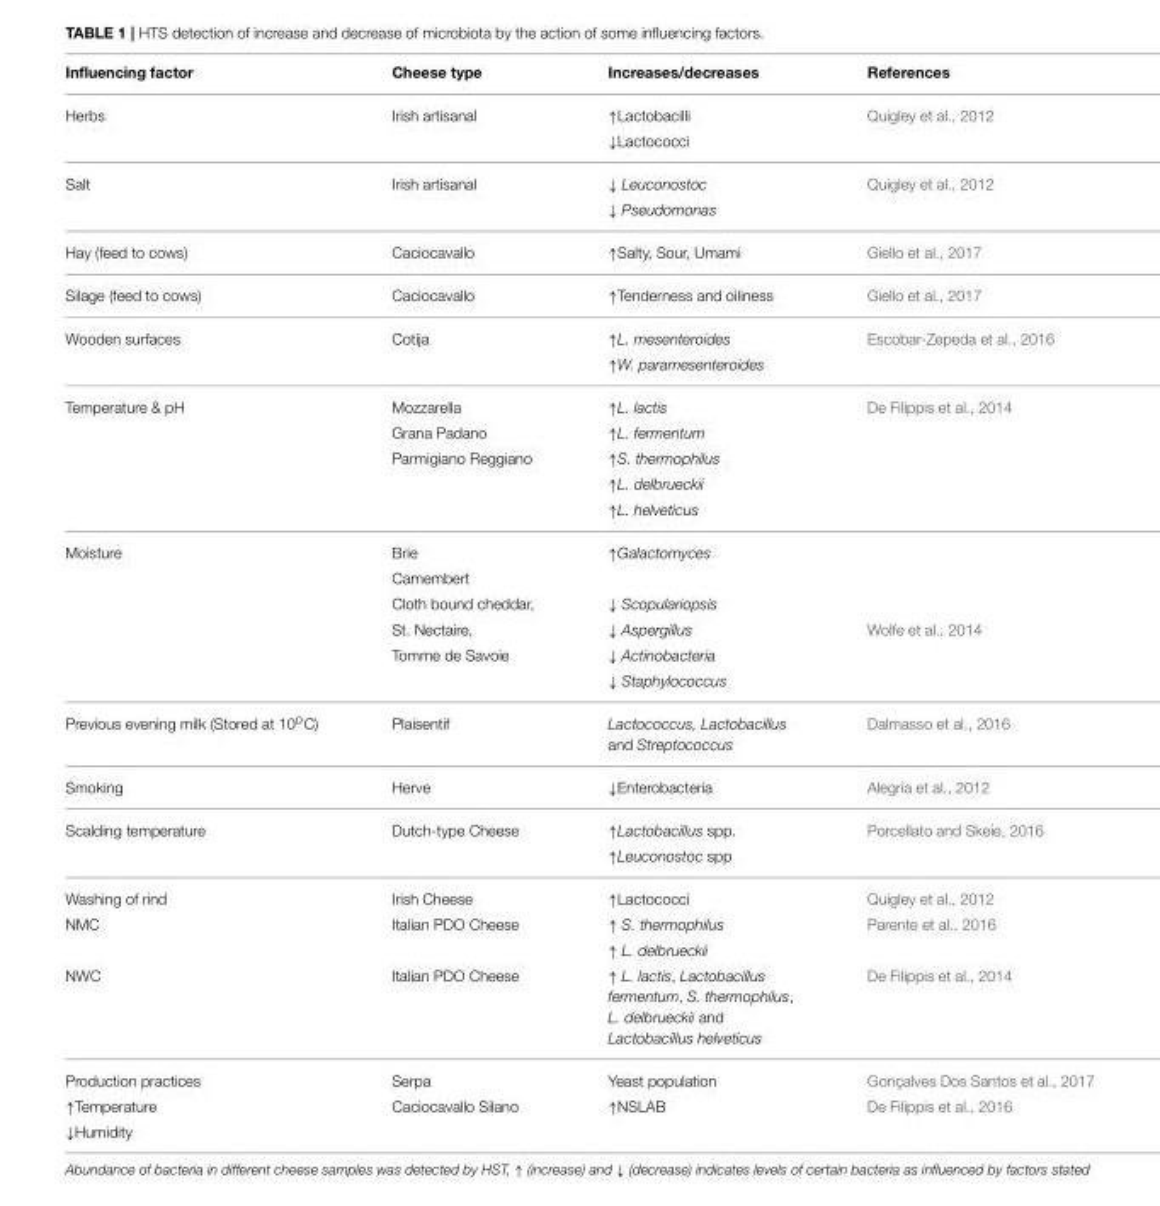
<table><thead><tr><td>Influencing factor</td><td>Cheese type</td><td>Increases/decreases</td><td>References</td></tr></thead><tbody><tr><td rowspan="2">Herbs</td><td>Irish artisanal</td><td>↑Lactobacilli</td><td>Quigley et al., 2012</td></tr><tr><td></td><td>↓Lactococci</td><td></td></tr><tr><td rowspan="2">Salt</td><td>Irish artisanal</td><td>↓ Leuconostoc</td><td>Quigley et al., 2012</td></tr><tr><td></td><td>↓ Pseudomonas</td><td></td></tr><tr><td>Hay (feed to cows)</td><td>Caciocavallo</td><td>↑Salty, Sour, Umami</td><td>Giello et al., 2017</td></tr><tr><td>Silage (feed to cows)</td><td>Caciocavallo</td><td>↑Tenderness and oiliness</td><td>Giello et al., 2017</td></tr><tr><td rowspan="2">Wooden surfaces</td><td>Cotija</td><td>↑L. mesenteroides</td><td>Escobar-Zepeda et al., 2016</td></tr><tr><td></td><td>↑W. paramesenteroides</td><td></td></tr><tr><td rowspan="5">Temperature &amp; pH</td><td>Mozzarella</td><td>↑L. lactis</td><td>De Filippis et al., 2014</td></tr><tr><td>Grana Padano</td><td>↑L. fermentum</td><td></td></tr><tr><td>Parmigiano Reggiano</td><td>↑S. thermophilus</td><td></td></tr><tr><td></td><td>↑L. delbrueckii</td><td></td></tr><tr><td></td><td>↑L. helveticus</td><td></td></tr><tr><td rowspan="6">Moisture</td><td>Brie</td><td>↑Galactomyces</td><td></td></tr><tr><td>Camembert</td><td></td><td></td></tr><tr><td>Cloth bound cheddar,</td><td>↓ Scopulariopsis</td><td></td></tr><tr><td>St. Nectaire,</td><td>↓ Aspergillus</td><td>Wolfe et al., 2014</td></tr><tr><td>Tomme de Savoie</td><td>↓ Actinobacteria</td><td></td></tr><tr><td></td><td>↓ Staphylococcus</td><td></td></tr><tr><td>Previous evening milk (Stored at 10<sup>o</sup>C)</td><td>Plaisentif</td><td>Lactococcus, Lactobacillus and Streptococcus</td><td>Dalmasso et al., 2016</td></tr><tr><td>Smoking</td><td>Herve</td><td>↓Enterobacteria</td><td>Alegría et al., 2012</td></tr><tr><td rowspan="2">Scalding temperature</td><td>Dutch-type Cheese</td><td>↑Lactobacillus spp.</td><td>Porcellato and Skeie, 2016</td></tr><tr><td></td><td>↑Leuconostoc spp</td><td></td></tr><tr><td>Washing of rind</td><td>Irish Cheese</td><td>↑Lactococci</td><td>Quigley et al., 2012</td></tr><tr><td rowspan="2">NMC</td><td>Italian PDO Cheese</td><td>↑ S. thermophilus</td><td>Parente et al., 2016</td></tr><tr><td></td><td>↑ L. delbrueckii</td><td></td></tr><tr><td>NWC</td><td>Italian PDO Cheese</td><td>↑ L. lactis, Lactobacillus fermentum, S. thermophilus, L. delbrueckii and Lactobacillus helveticus</td><td>De Filippis et al., 2014</td></tr><tr><td>Production practices</td><td>Serpa</td><td>Yeast population</td><td>Gonçalves Dos Santos et al., 2017</td></tr><tr><td>↑Temperature</td><td>Caciocavallo Silano</td><td>↑NSLAB</td><td>De Filippis et al., 2016</td></tr><tr><td>↓Humidity</td><td></td><td></td><td></td></tr></tbody></table>